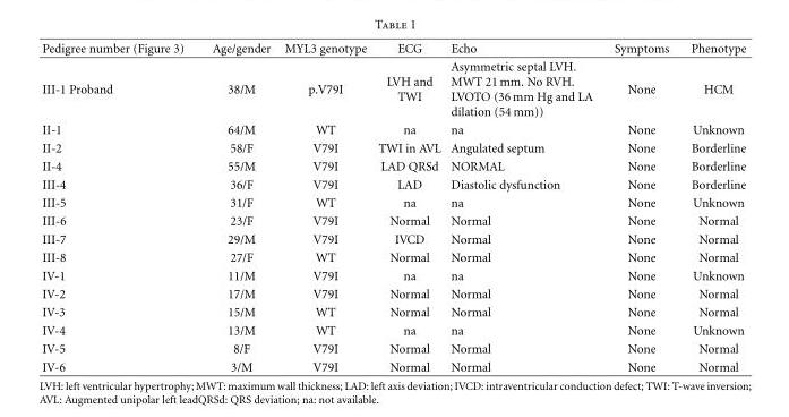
<table><thead><tr><td>Pedigree number (Figure 3)</td><td>Age/gender</td><td>MYL3 genotype</td><td>ECG</td><td>Echo</td><td>Symptoms</td><td>Phenotype</td></tr></thead><tbody><tr><td>III-1 Proband</td><td>38/M</td><td>p.V79I</td><td>LVH and TWI</td><td>Asymmetric septal LVH. MWT 21 mm. No RVH. LVOTO (36 mm Hg and LA dilation (54 mm))</td><td>None</td><td>HCM</td></tr><tr><td>II-1</td><td>64/M</td><td>WT</td><td>na</td><td>na</td><td>None</td><td>Unknown</td></tr><tr><td>II-2</td><td>58/F</td><td>V79I</td><td>TWI in AVL</td><td>Angulated septum</td><td>None</td><td>Borderline</td></tr><tr><td>II-4</td><td>55/M</td><td>V79I</td><td>LAD QRSd</td><td>NORMAL</td><td>None</td><td>Borderline</td></tr><tr><td>III-4</td><td>36/F</td><td>V79I</td><td>LAD</td><td>Diastolic dysfunction</td><td>None</td><td>Borderline</td></tr><tr><td>III-5</td><td>31/F</td><td>WT</td><td>na</td><td>na</td><td>None</td><td>Unknown</td></tr><tr><td>III-6</td><td>23/F</td><td>V79I</td><td>Normal</td><td>Normal</td><td>None</td><td>Normal</td></tr><tr><td>III-7</td><td>29/M</td><td>V79I</td><td>IVCD</td><td>Normal</td><td>None</td><td>Normal</td></tr><tr><td>III-8</td><td>27/F</td><td>WT</td><td>Normal</td><td>Normal</td><td>None</td><td>Normal</td></tr><tr><td>IV-1</td><td>11/M</td><td>V79I</td><td>na</td><td>na</td><td>None</td><td>Unknown</td></tr><tr><td>IV-2</td><td>17/M</td><td>V79I</td><td>Normal</td><td>Normal</td><td>None</td><td>Normal</td></tr><tr><td>IV-3</td><td>15/M</td><td>WT</td><td>Normal</td><td>Normal</td><td>None</td><td>Normal</td></tr><tr><td>IV-4</td><td>13/M</td><td>WT</td><td>na</td><td>na</td><td>None</td><td>Unknown</td></tr><tr><td>IV-5</td><td>8/F</td><td>V79I</td><td>Normal</td><td>Normal</td><td>None</td><td>Normal</td></tr><tr><td>IV-6</td><td>3/M</td><td>V79I</td><td>Normal</td><td>Normal</td><td>None</td><td>Normal</td></tr></tbody></table>